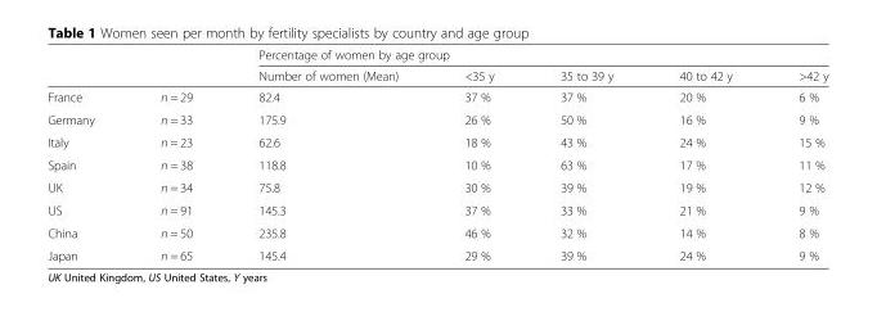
<table><thead><tr><td rowspan="2"></td><td rowspan="2"></td><td colspan="5">Percentage of women by age group</td></tr><tr><td>Number of women (Mean)</td><td>&lt;35 y</td><td>35 to 39 y</td><td>40 to 42 y</td><td>&gt;42 y</td></tr></thead><tbody><tr><td>France</td><td>n = 29</td><td>82.4</td><td>37 %</td><td>37 %</td><td>20 %</td><td>6 %</td></tr><tr><td>Germany</td><td>n = 33</td><td>175.9</td><td>26 %</td><td>50 %</td><td>16 %</td><td>9 %</td></tr><tr><td>Italy</td><td>n = 23</td><td>62.6</td><td>18 %</td><td>43 %</td><td>24 %</td><td>15 %</td></tr><tr><td>Spain</td><td>n = 38</td><td>118.8</td><td>10 %</td><td>63 %</td><td>17 %</td><td>11 %</td></tr><tr><td>UK</td><td>n = 34</td><td>75.8</td><td>30 %</td><td>39 %</td><td>19 %</td><td>12 %</td></tr><tr><td>US</td><td>n = 91</td><td>145.3</td><td>37 %</td><td>33 %</td><td>21 %</td><td>9 %</td></tr><tr><td>China</td><td>n = 50</td><td>235.8</td><td>46 %</td><td>32 %</td><td>14 %</td><td>8 %</td></tr><tr><td>Japan</td><td>n = 65</td><td>145.4</td><td>29 %</td><td>39 %</td><td>24 %</td><td>9 %</td></tr></tbody></table>